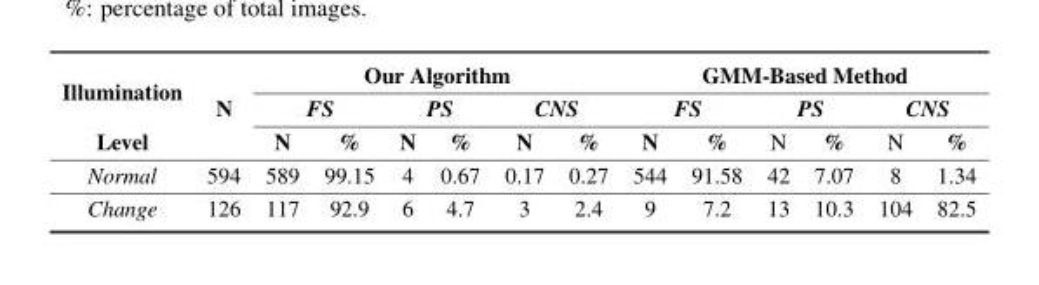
<table><thead><tr><td rowspan="3">Illumination Level</td><td rowspan="3">N</td><td colspan="6">Our Algorithm</td><td colspan="6">GMM-Based Method</td></tr><tr><td colspan="2">FS</td><td colspan="2">PS</td><td colspan="2">CNS</td><td colspan="2">FS</td><td colspan="2">PS</td><td colspan="2">CNS</td></tr><tr><td>N</td><td>%</td><td>N</td><td>%</td><td>N</td><td>%</td><td>N</td><td>%</td><td>N</td><td>%</td><td>N</td><td>%</td></tr></thead><tbody><tr><td>Normal</td><td>594</td><td>589</td><td>99.15</td><td>4</td><td>0.67</td><td>0.17</td><td>0.27</td><td>544</td><td>91.58</td><td>42</td><td>7.07</td><td>8</td><td>1.34</td></tr><tr><td>Change</td><td>126</td><td>117</td><td>92.9</td><td>6</td><td>4.7</td><td>3</td><td>2.4</td><td>9</td><td>7.2</td><td>13</td><td>10.3</td><td>104</td><td>82.5</td></tr></tbody></table>